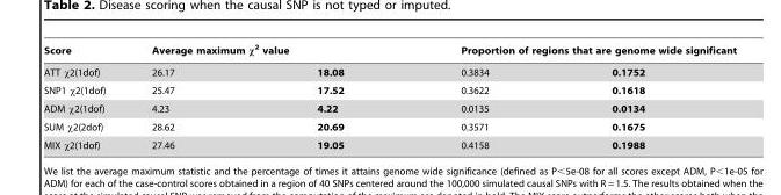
<table><thead><tr><td rowspan="2">Score ATT χ2(1dof)</td><td colspan="2">Average maximum χ<sup>2</sup> value</td><td colspan="2">Proportion of regions that are genome wide significant</td></tr><tr><td>26.17</td><td>18.08</td><td>0.3834</td><td>0.1752</td></tr></thead><tbody><tr><td>SNP1 χ2(1dof)</td><td>25.47</td><td>17.52</td><td>0.3622</td><td>0.1618</td></tr><tr><td>ADM χ2(1dof)</td><td>4.23</td><td>4.22</td><td>0.0135</td><td>0.0134</td></tr><tr><td>SUM χ2(2dof)</td><td>28.62</td><td>20.69</td><td>0.3571</td><td>0.1675</td></tr><tr><td>MIX χ2(1dof)</td><td>27.46</td><td>19.05</td><td>0.4158</td><td>0.1988</td></tr></tbody></table>